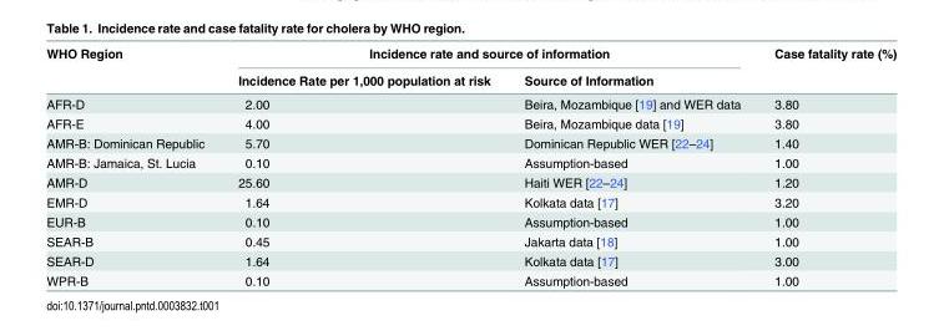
<table><thead><tr><td rowspan="2">WHO Region</td><td colspan="2">Incidence rate and source of information</td><td rowspan="2">Case fatality rate (%)</td></tr><tr><td>Incidence Rate per 1,000 population at risk</td><td>Source of Information</td></tr></thead><tbody><tr><td>AFR-D</td><td>2.00</td><td>Beira, Mozambique [19] and WER data</td><td>3.80</td></tr><tr><td>AFR-E</td><td>4.00</td><td>Beira, Mozambique data [19]</td><td>3.80</td></tr><tr><td>AMR-B: Dominican Republic</td><td>5.70</td><td>Dominican Republic WER [22–24]</td><td>1.40</td></tr><tr><td>AMR-B: Jamaica, St. Lucia</td><td>0.10</td><td>Assumption-based</td><td>1.00</td></tr><tr><td>AMR-D</td><td>25.60</td><td>Haiti WER [22–24]</td><td>1.20</td></tr><tr><td>EMR-D</td><td>1.64</td><td>Kolkata data [17]</td><td>3.20</td></tr><tr><td>EUR-B</td><td>0.10</td><td>Assumption-based</td><td>1.00</td></tr><tr><td>SEAR-B</td><td>0.45</td><td>Jakarta data [18]</td><td>1.00</td></tr><tr><td>SEAR-D</td><td>1.64</td><td>Kolkata data [17]</td><td>3.00</td></tr><tr><td>WPR-B</td><td>0.10</td><td>Assumption-based</td><td>1.00</td></tr></tbody></table>